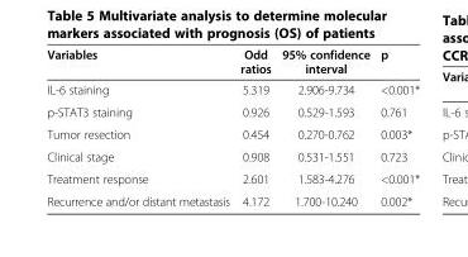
<table><thead><tr><td>Variables</td><td>Odd ratios</td><td>95% confidence interval</td><td>p</td></tr></thead><tbody><tr><td>IL-6 staining</td><td>5.319</td><td>2.906-9.734</td><td>&lt;0.001*</td></tr><tr><td>p-STAT3 staining</td><td>0.926</td><td>0.529-1.593</td><td>0.761</td></tr><tr><td>Tumor resection</td><td>0.454</td><td>0.270-0.762</td><td>0.003*</td></tr><tr><td>Clinical stage</td><td>0.908</td><td>0.531-1.551</td><td>0.723</td></tr><tr><td>Treatment response</td><td>2.601</td><td>1.583-4.276</td><td>&lt;0.001*</td></tr><tr><td>Recurrence and/or distant metastasis</td><td>4.172</td><td>1.700-10.240</td><td>0.002*</td></tr></tbody></table>